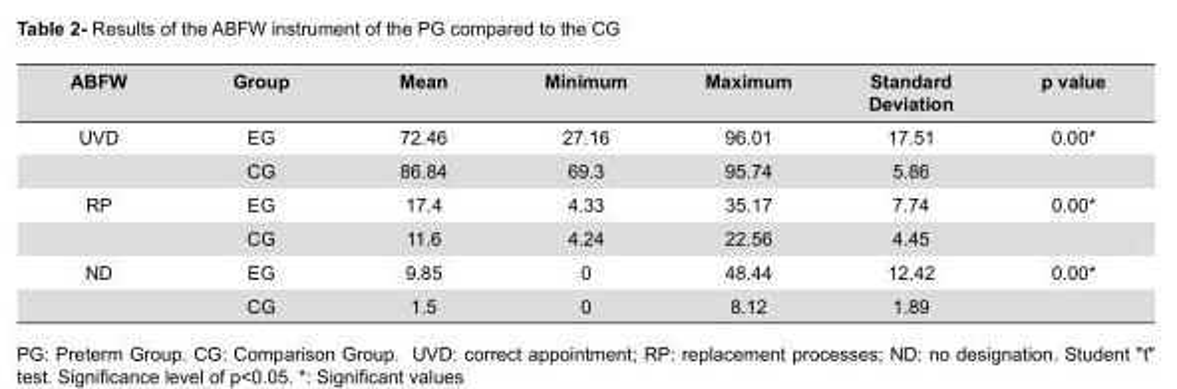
<table><thead><tr><td>ABFW</td><td>Group</td><td>Mean</td><td>Minimum</td><td>Maximum</td><td>Standard Deviation</td><td>p value</td></tr></thead><tbody><tr><td rowspan="2">UVD</td><td>EG</td><td>72.46</td><td>27.16</td><td>96.01</td><td>17.51</td><td>0.00*</td></tr><tr><td>CG</td><td>86.84</td><td>69.3</td><td>95.74</td><td>5.86</td><td></td></tr><tr><td rowspan="2">RP</td><td>EG</td><td>17.4</td><td>4.33</td><td>35.17</td><td>7.74</td><td>0.00*</td></tr><tr><td>CG</td><td>11.6</td><td>4.24</td><td>22.56</td><td>4.45</td><td></td></tr><tr><td rowspan="2">ND</td><td>EG</td><td>9.85</td><td>0</td><td>48.44</td><td>12.42</td><td>0.00*</td></tr><tr><td>CG</td><td>1.5</td><td>0</td><td>8.12</td><td>1.89</td><td></td></tr></tbody></table>